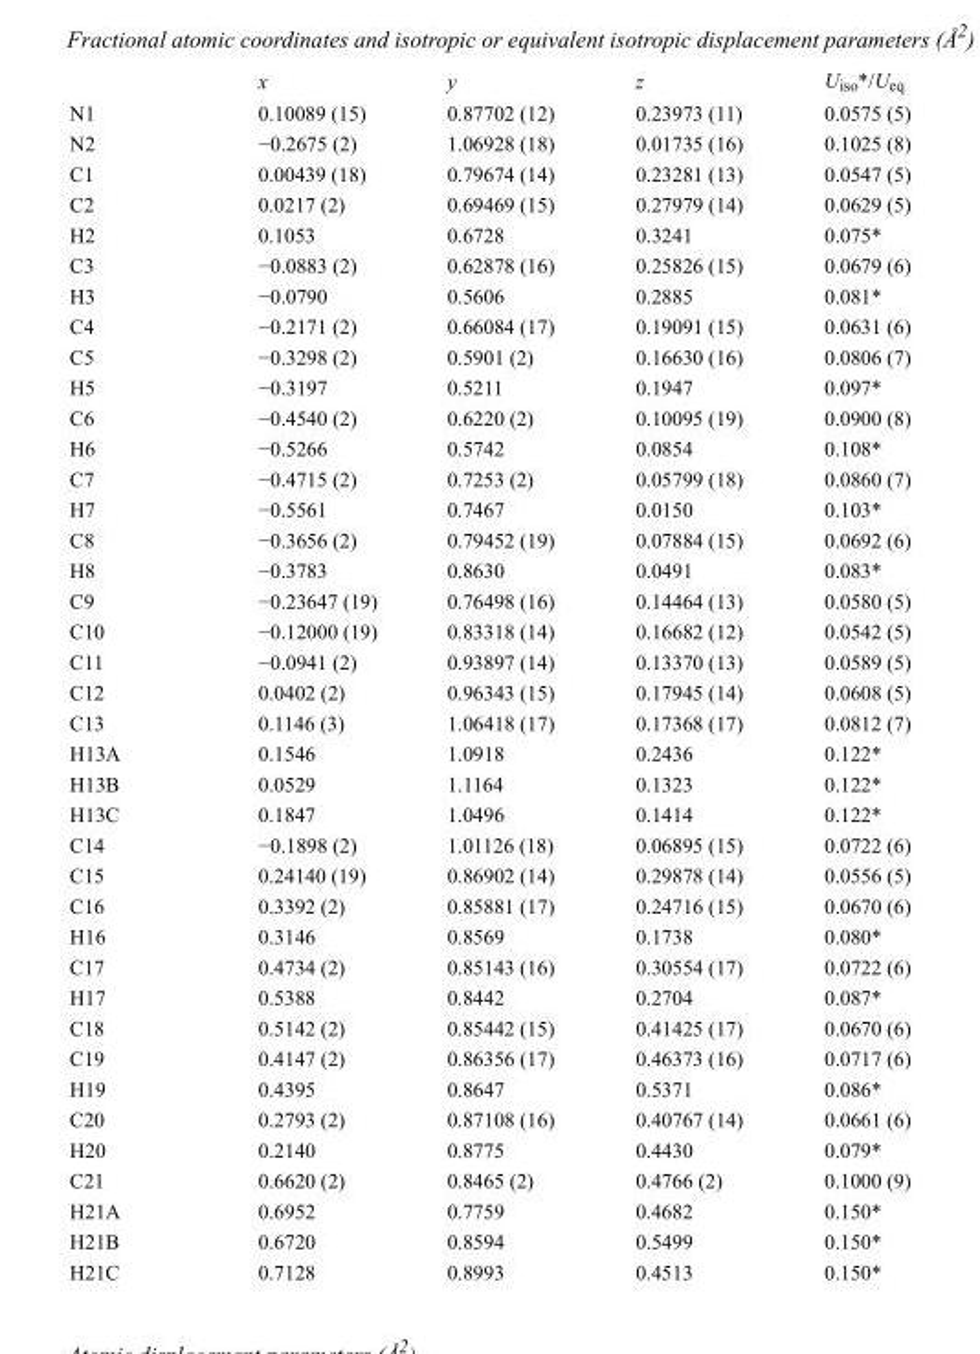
<table><thead><tr><td></td><td>x</td><td>y</td><td>z</td><td>U<sub>iso</sub>*/U<sub>eq</sub></td></tr></thead><tbody><tr><td>N1</td><td>0.10089 (15)</td><td>0.87702 (12)</td><td>0.23973 (11)</td><td>0.0575 (5)</td></tr><tr><td>N2</td><td>−0.2675 (2)</td><td>1.06928 (18)</td><td>0.01735 (16)</td><td>0.1025 (8)</td></tr><tr><td>C1</td><td>0.00439 (18)</td><td>0.79674 (14)</td><td>0.23281 (13)</td><td>0.0547 (5)</td></tr><tr><td>C2</td><td>0.0217 (2)</td><td>0.69469 (15)</td><td>0.27979 (14)</td><td>0.0629 (5)</td></tr><tr><td>H2</td><td>0.1053</td><td>0.6728</td><td>0.3241</td><td>0.075*</td></tr><tr><td>C3</td><td>−0.0883 (2)</td><td>0.62878 (16)</td><td>0.25826 (15)</td><td>0.0679 (6)</td></tr><tr><td>H3</td><td>−0.0790</td><td>0.5606</td><td>0.2885</td><td>0.081*</td></tr><tr><td>C4</td><td>−0.2171 (2)</td><td>0.66084 (17)</td><td>0.19091 (15)</td><td>0.0631 (6)</td></tr><tr><td>C5</td><td>−0.3298 (2)</td><td>0.5901 (2)</td><td>0.16630 (16)</td><td>0.0806 (7)</td></tr><tr><td>H5</td><td>−0.3197</td><td>0.5211</td><td>0.1947</td><td>0.097*</td></tr><tr><td>C6</td><td>−0.4540 (2)</td><td>0.6220 (2)</td><td>0.10095 (19)</td><td>0.0900 (8)</td></tr><tr><td>H6</td><td>−0.5266</td><td>0.5742</td><td>0.0854</td><td>0.108*</td></tr><tr><td>C7</td><td>−0.4715 (2)</td><td>0.7253 (2)</td><td>0.05799 (18)</td><td>0.0860 (7)</td></tr><tr><td>H7</td><td>−0.5561</td><td>0.7467</td><td>0.0150</td><td>0.103*</td></tr><tr><td>C8</td><td>−0.3656 (2)</td><td>0.79452 (19)</td><td>0.07884 (15)</td><td>0.0692 (6)</td></tr><tr><td>H8</td><td>−0.3783</td><td>0.8630</td><td>0.0491</td><td>0.083*</td></tr><tr><td>C9</td><td>−0.23647 (19)</td><td>0.76498 (16)</td><td>0.14464 (13)</td><td>0.0580 (5)</td></tr><tr><td>C10</td><td>−0.12000 (19)</td><td>0.83318 (14)</td><td>0.16682 (12)</td><td>0.0542 (5)</td></tr><tr><td>C11</td><td>−0.0941 (2)</td><td>0.93897 (14)</td><td>0.13370 (13)</td><td>0.0589 (5)</td></tr><tr><td>C12</td><td>0.0402 (2)</td><td>0.96343 (15)</td><td>0.17945 (14)</td><td>0.0608 (5)</td></tr><tr><td>C13</td><td>0.1146 (3)</td><td>1.06418 (17)</td><td>0.17368 (17)</td><td>0.0812 (7)</td></tr><tr><td>H13A</td><td>0.1546</td><td>1.0918</td><td>0.2436</td><td>0.122*</td></tr><tr><td>H13B</td><td>0.0529</td><td>1.1164</td><td>0.1323</td><td>0.122*</td></tr><tr><td>H13C</td><td>0.1847</td><td>1.0496</td><td>0.1414</td><td>0.122*</td></tr><tr><td>C14</td><td>−0.1898 (2)</td><td>1.01126 (18)</td><td>0.06895 (15)</td><td>0.0722 (6)</td></tr><tr><td>C15</td><td>0.24140 (19)</td><td>0.86902 (14)</td><td>0.29878 (14)</td><td>0.0556 (5)</td></tr><tr><td>C16</td><td>0.3392 (2)</td><td>0.85881 (17)</td><td>0.24716 (15)</td><td>0.0670 (6)</td></tr><tr><td>H16</td><td>0.3146</td><td>0.8569</td><td>0.1738</td><td>0.080*</td></tr><tr><td>C17</td><td>0.4734 (2)</td><td>0.85143 (16)</td><td>0.30554 (17)</td><td>0.0722 (6)</td></tr><tr><td>H17</td><td>0.5388</td><td>0.8442</td><td>0.2704</td><td>0.087*</td></tr><tr><td>C18</td><td>0.5142 (2)</td><td>0.85442 (15)</td><td>0.41425 (17)</td><td>0.0670 (6)</td></tr><tr><td>C19</td><td>0.4147 (2)</td><td>0.86356 (17)</td><td>0.46373 (16)</td><td>0.0717 (6)</td></tr><tr><td>H19</td><td>0.4395</td><td>0.8647</td><td>0.5371</td><td>0.086*</td></tr><tr><td>C20</td><td>0.2793 (2)</td><td>0.87108 (16)</td><td>0.40767 (14)</td><td>0.0661 (6)</td></tr><tr><td>H20</td><td>0.2140</td><td>0.8775</td><td>0.4430</td><td>0.079*</td></tr><tr><td>C21</td><td>0.6620 (2)</td><td>0.8465 (2)</td><td>0.4766 (2)</td><td>0.1000 (9)</td></tr><tr><td>H21A</td><td>0.6952</td><td>0.7759</td><td>0.4682</td><td>0.150*</td></tr><tr><td>H21B</td><td>0.6720</td><td>0.8594</td><td>0.5499</td><td>0.150*</td></tr><tr><td>H21C</td><td>0.7128</td><td>0.8993</td><td>0.4513</td><td>0.150*</td></tr></tbody></table>